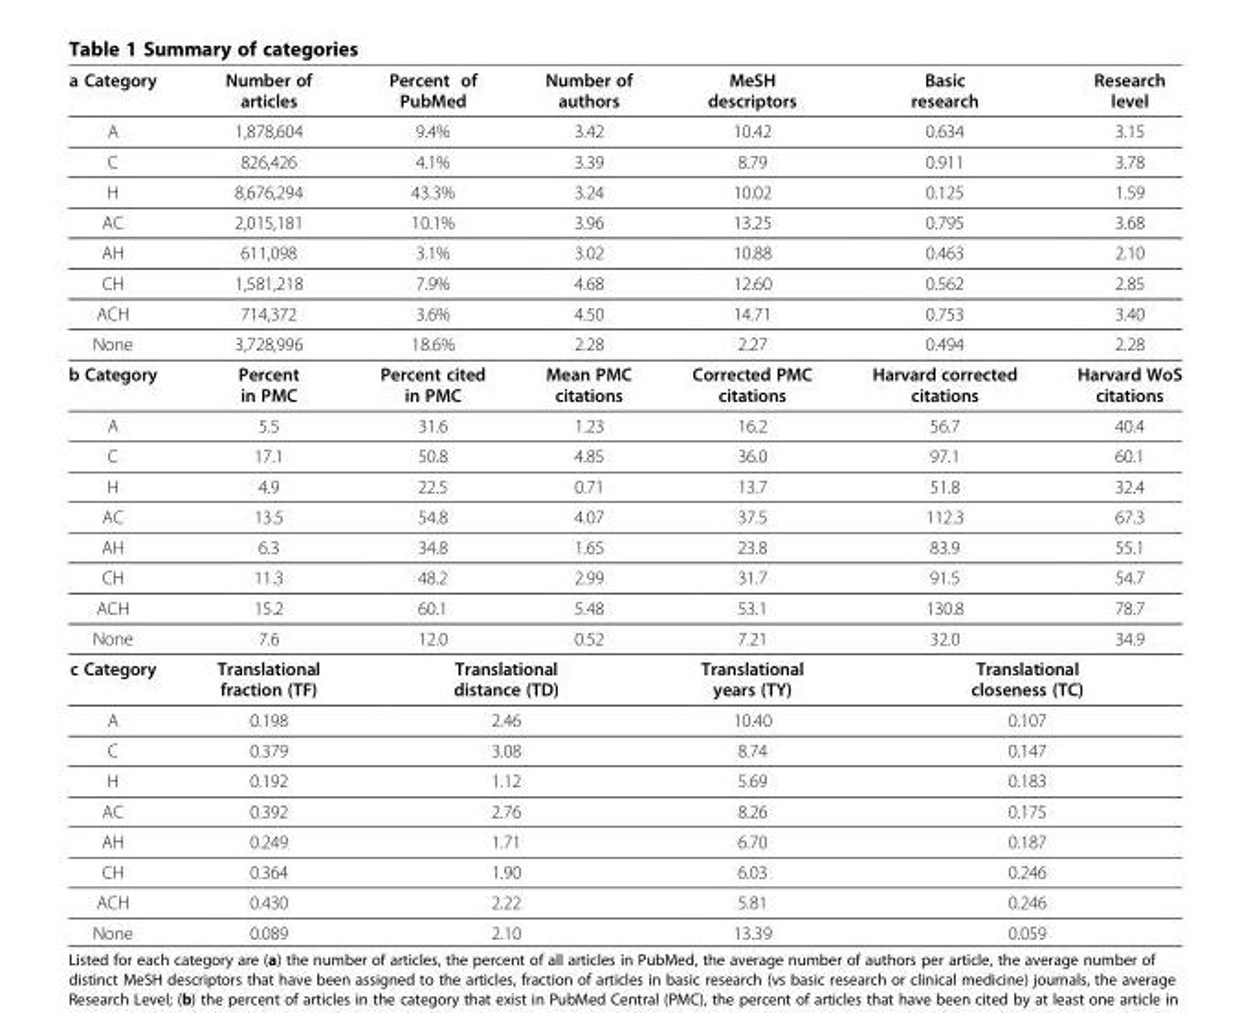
<table><thead><tr><td>a Category</td><td>Number of articles</td><td>Percent of PubMed</td><td>Number of authors</td><td>MeSH descriptors</td><td>Basic research</td><td>Research level</td></tr></thead><tbody><tr><td>A</td><td>1,878,604</td><td>9.4%</td><td>3.42</td><td>10.42</td><td>0.634</td><td>3.15</td></tr><tr><td>C</td><td>826,426</td><td>4.1%</td><td>3.39</td><td>8.79</td><td>0.911</td><td>3.78</td></tr><tr><td>H</td><td>8,676,294</td><td>43.3%</td><td>3.24</td><td>10.02</td><td>0.125</td><td>1.59</td></tr><tr><td>AC</td><td>2,015,181</td><td>10.1%</td><td>3.96</td><td>13.25</td><td>0.795</td><td>3.68</td></tr><tr><td>AH</td><td>611,098</td><td>3.1%</td><td>3.02</td><td>10.88</td><td>0.463</td><td>2.10</td></tr><tr><td>CH</td><td>1,581,218</td><td>7.9%</td><td>4.68</td><td>12.60</td><td>0.562</td><td>2.85</td></tr><tr><td>ACH</td><td>714,372</td><td>3.6%</td><td>4.50</td><td>14.71</td><td>0.753</td><td>3.40</td></tr><tr><td>None</td><td>3,728,996</td><td>18.6%</td><td>2.28</td><td>2.27</td><td>0.494</td><td>2.28</td></tr><tr><td>b Category</td><td>Percent in PMC</td><td>Percent cited in PMC</td><td>Mean PMC citations</td><td>Corrected PMC citations</td><td>Harvard corrected citations</td><td>Harvard WoS citations</td></tr><tr><td>A</td><td>5.5</td><td>31.6</td><td>1.23</td><td>16.2</td><td>56.7</td><td>40.4</td></tr><tr><td>C</td><td>17.1</td><td>50.8</td><td>4.85</td><td>36.0</td><td>97.1</td><td>60.1</td></tr><tr><td>H</td><td>4.9</td><td>22.5</td><td>0.71</td><td>13.7</td><td>51.8</td><td>32.4</td></tr><tr><td>AC</td><td>13.5</td><td>54.8</td><td>4.07</td><td>37.5</td><td>112.3</td><td>67.3</td></tr><tr><td>AH</td><td>6.3</td><td>34.8</td><td>1.65</td><td>23.8</td><td>83.9</td><td>55.1</td></tr><tr><td>CH</td><td>11.3</td><td>48.2</td><td>2.99</td><td>31.7</td><td>91.5</td><td>54.7</td></tr><tr><td>ACH</td><td>15.2</td><td>60.1</td><td>5.48</td><td>53.1</td><td>130.8</td><td>78.7</td></tr><tr><td>None</td><td>7.6</td><td>12.0</td><td>0.52</td><td>7.21</td><td>32.0</td><td>34.9</td></tr><tr><td>c Category</td><td>Translational fraction (TF)</td><td colspan="2">Translational distance (TD)</td><td>Translational years (TY)</td><td colspan="2">Translational closeness (TC)</td></tr><tr><td>A</td><td>0.198</td><td colspan="2">2.46</td><td>10.40</td><td colspan="2">0.107</td></tr><tr><td>C</td><td>0.379</td><td colspan="2">3.08</td><td>8.74</td><td colspan="2">0.147</td></tr><tr><td>H</td><td>0.192</td><td colspan="2">1.12</td><td>5.69</td><td colspan="2">0.183</td></tr><tr><td>AC</td><td>0.392</td><td colspan="2">2.76</td><td>8.26</td><td colspan="2">0.175</td></tr><tr><td>AH</td><td>0.249</td><td colspan="2">1.71</td><td>6.70</td><td colspan="2">0.187</td></tr><tr><td>CH</td><td>0.364</td><td colspan="2">1.90</td><td>6.03</td><td colspan="2">0.246</td></tr><tr><td>ACH</td><td>0.430</td><td colspan="2">2.22</td><td>5.81</td><td colspan="2">0.246</td></tr><tr><td>None</td><td>0.089</td><td colspan="2">2.10</td><td>13.39</td><td colspan="2">0.059</td></tr></tbody></table>